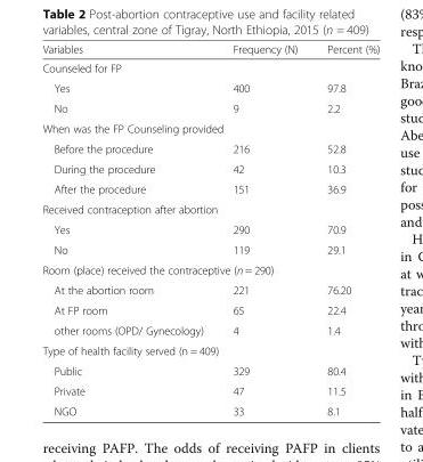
<table><thead><tr><td>Variables</td><td>Frequency (N)</td><td>Percent (%)</td></tr></thead><tbody><tr><td colspan="3">Counseled for FP</td></tr><tr><td>Yes</td><td>400</td><td>97.8</td></tr><tr><td>No</td><td>9</td><td>2.2</td></tr><tr><td colspan="3">When was the FP Counseling provided</td></tr><tr><td>Before the procedure</td><td>216</td><td>52.8</td></tr><tr><td>During the procedure</td><td>42</td><td>10.3</td></tr><tr><td>After the procedure</td><td>151</td><td>36.9</td></tr><tr><td colspan="3">Received contraception after abortion</td></tr><tr><td>Yes</td><td>290</td><td>70.9</td></tr><tr><td>No</td><td>119</td><td>29.1</td></tr><tr><td colspan="3">Room (place) received the contraceptive (n = 290)</td></tr><tr><td>At the abortion room</td><td>221</td><td>76.20</td></tr><tr><td>At FP room</td><td>65</td><td>22.4</td></tr><tr><td>other rooms (OPD/ Gynecology)</td><td>4</td><td>1.4</td></tr><tr><td colspan="3">Type of health facility served (n = 409)</td></tr><tr><td>Public</td><td>329</td><td>80.4</td></tr><tr><td>Private</td><td>47</td><td>11.5</td></tr><tr><td>NGO</td><td>33</td><td>8.1</td></tr></tbody></table>